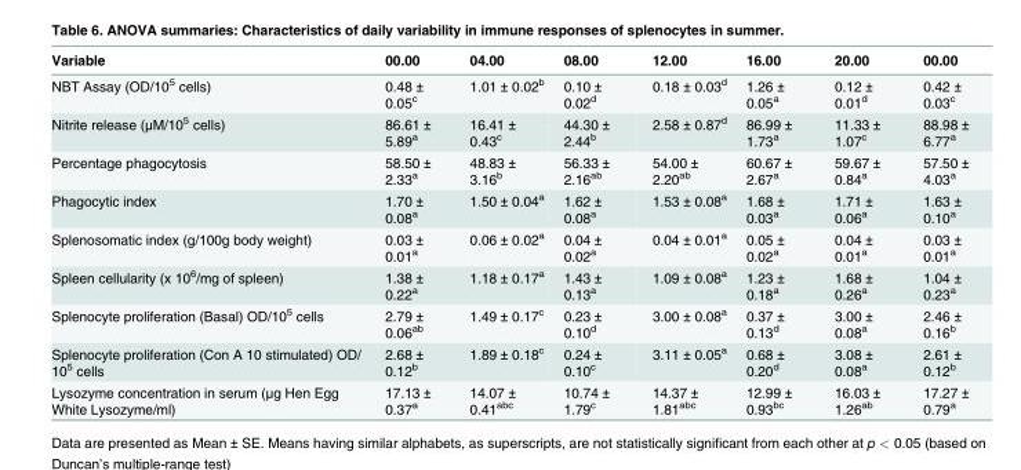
<table><thead><tr><td>Variable</td><td>00.00</td><td>04.00</td><td>08.00</td><td>12.00</td><td>16.00</td><td>20.00</td><td>00.00</td></tr></thead><tbody><tr><td>NBT Assay (OD/10<sup>5</sup> cells)</td><td>0.48 ± 0.05<sup>c</sup></td><td>1.01 ± 0.02<sup>b</sup></td><td>0.10 ± 0.02<sup>d</sup></td><td>0.18 ± 0.03<sup>d</sup></td><td>1.26 ± 0.05<sup>a</sup></td><td>0.12 ± 0.01<sup>d</sup></td><td>0.42 ± 0.03<sup>c</sup></td></tr><tr><td>Nitrite release (μM/10<sup>5</sup> cells)</td><td>86.61 ± 5.89<sup>a</sup></td><td>16.41 ± 0.43<sup>c</sup></td><td>44.30 ± 2.44<sup>b</sup></td><td>2.58 ± 0.87<sup>d</sup></td><td>86.99 ± 1.73<sup>a</sup></td><td>11.33 ± 1.07<sup>c</sup></td><td>88.98 ± 6.77<sup>a</sup></td></tr><tr><td>Percentage phagocytosis</td><td>58.50 ± 2.33<sup>a</sup></td><td>48.83 ± 3.16<sup>b</sup></td><td>56.33 ± 2.16<sup>ab</sup></td><td>54.00 ± 2.20<sup>ab</sup></td><td>60.67 ± 2.67<sup>a</sup></td><td>59.67 ± 0.84<sup>a</sup></td><td>57.50 ± 4.03<sup>a</sup></td></tr><tr><td>Phagocytic index</td><td>1.70 ± 0.08<sup>a</sup></td><td>1.50 ± 0.04<sup>a</sup></td><td>1.62 ± 0.08<sup>a</sup></td><td>1.53 ± 0.08<sup>a</sup></td><td>1.68 ± 0.03<sup>a</sup></td><td>1.71 ± 0.06<sup>a</sup></td><td>1.63 ± 0.10<sup>a</sup></td></tr><tr><td>Splenosomatic index (g/100g body weight)</td><td>0.03 ± 0.01<sup>a</sup></td><td>0.06 ± 0.02<sup>a</sup></td><td>0.04 ± 0.02<sup>a</sup></td><td>0.04 ± 0.01<sup>a</sup></td><td>0.05 ± 0.02<sup>a</sup></td><td>0.04 ± 0.01<sup>a</sup></td><td>0.03 ± 0.01<sup>a</sup></td></tr><tr><td>Spleen cellularity (x 10<sup>6</sup>/mg of spleen)</td><td>1.38 ± 0.22<sup>a</sup></td><td>1.18 ± 0.17<sup>a</sup></td><td>1.43 ± 0.13<sup>a</sup></td><td>1.09 ± 0.08<sup>a</sup></td><td>1.23 ± 0.18<sup>a</sup></td><td>1.68 ± 0.26<sup>a</sup></td><td>1.04 ± 0.23<sup>a</sup></td></tr><tr><td>Splenocyte proliferation (Basal) OD/10<sup>5</sup> cells</td><td>2.79 ± 0.06<sup>ab</sup></td><td>1.49 ± 0.17<sup>c</sup></td><td>0.23 ± 0.10<sup>d</sup></td><td>3.00 ± 0.08<sup>a</sup></td><td>0.37 ± 0.13<sup>d</sup></td><td>3.00 ± 0.08<sup>a</sup></td><td>2.46 ± 0.16<sup>b</sup></td></tr><tr><td>Splenocyte proliferation (Con A 10 stimulated) OD/ 10<sup>5</sup> cells</td><td>2.68 ± 0.12<sup>b</sup></td><td>1.89 ± 0.18<sup>c</sup></td><td>0.24 ± 0.10<sup>c</sup></td><td>3.11 ± 0.05<sup>a</sup></td><td>0.68 ± 0.20<sup>d</sup></td><td>3.08 ± 0.08<sup>a</sup></td><td>2.61 ± 0.12<sup>b</sup></td></tr><tr><td>Lysozyme concentration in serum (μg Hen Egg White Lysozyme/ml)</td><td>17.13 ± 0.37<sup>a</sup></td><td>14.07 ± 0.41<sup>abc</sup></td><td>10.74 ± 1.79<sup>c</sup></td><td>14.37 ± 1.81<sup>abc</sup></td><td>12.99 ± 0.93<sup>bc</sup></td><td>16.03 ± 1.26<sup>ab</sup></td><td>17.27 ± 0.79<sup>a</sup></td></tr></tbody></table>